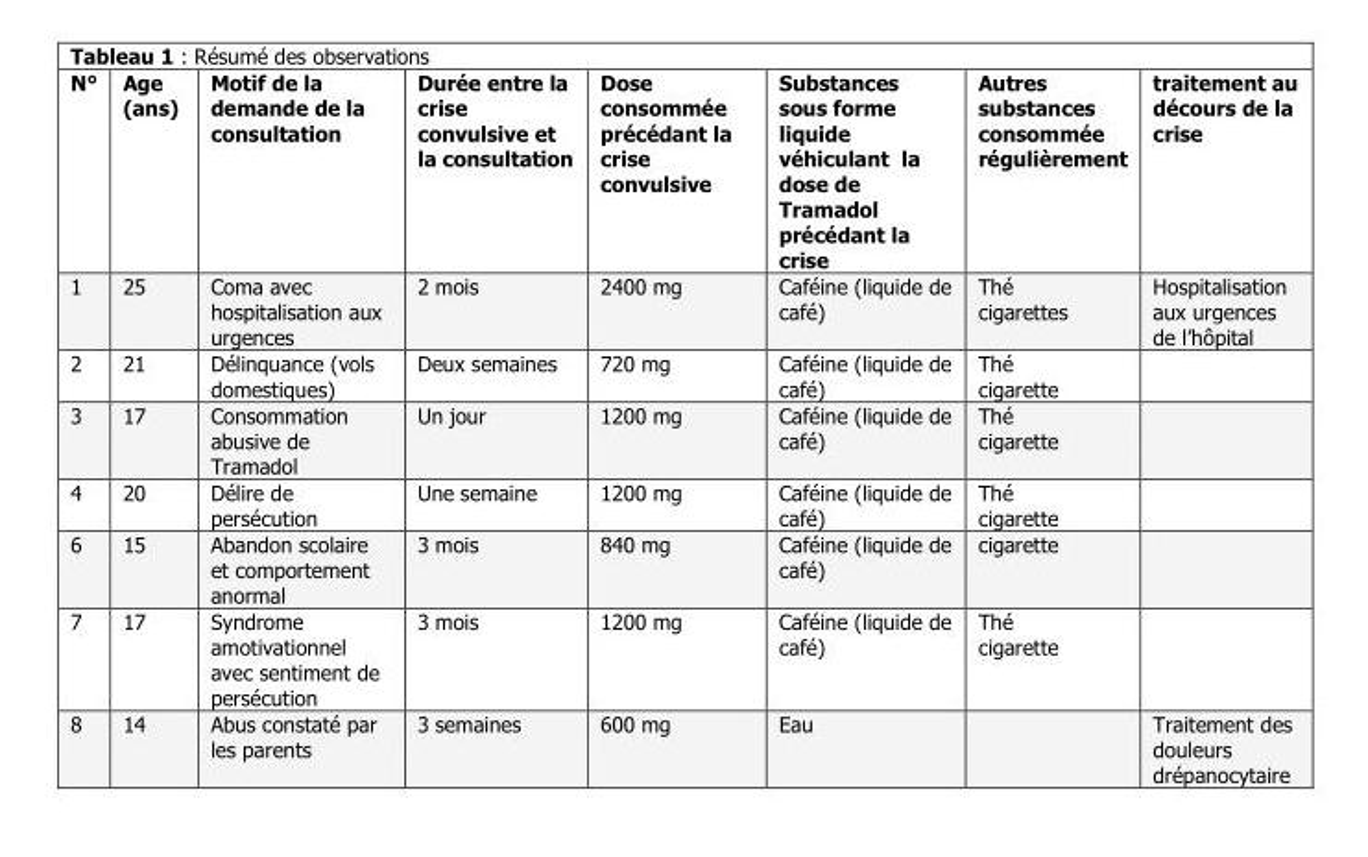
<table><thead><tr><td>N°</td><td>Age (ans)</td><td>Motif de la demande de la consultation</td><td>Durée entre la crise convulsive et la consultation</td><td>Dose consommée précédant la crise convulsive</td><td>Substances sous forme liquide véhiculant la dose de Tramadol précédant la crise</td><td>Autres substances consommée régulièrement</td><td>traitement au décours de la crise</td></tr></thead><tbody><tr><td>1</td><td>25</td><td>Coma avec hospitalisation aux urgences</td><td>2 mois</td><td>2400 mg</td><td>Caféine (liquide de café)</td><td>Thé cigarettes</td><td>Hospitalisation aux urgences de l’hôpital</td></tr><tr><td>2</td><td>21</td><td>Délinquance (vols domestiques)</td><td>Deux semaines</td><td>720 mg</td><td>Caféine (liquide de café)</td><td>Thé cigarette</td><td></td></tr><tr><td>3</td><td>17</td><td>Consommation abusive de Tramadol</td><td>Un jour</td><td>1200 mg</td><td>Caféine (liquide de café)</td><td>Thé cigarette</td><td></td></tr><tr><td>4</td><td>20</td><td>Délire de persécution</td><td>Une semaine</td><td>1200 mg</td><td>Caféine (liquide de café)</td><td>Thé cigarette</td><td></td></tr><tr><td>6</td><td>15</td><td>Abandon scolaire et comportement anormal</td><td>3 mois</td><td>840 mg</td><td>Caféine (liquide de café)</td><td>cigarette</td><td></td></tr><tr><td>7</td><td>17</td><td>Syndrome amotivationnel avec sentiment de persécution</td><td>3 mois</td><td>1200 mg</td><td>Caféine (liquide de café)</td><td>Thé cigarette</td><td></td></tr><tr><td>8</td><td>14</td><td>Abus constaté par les parents</td><td>3 semaines</td><td>600 mg</td><td>Eau</td><td></td><td>Traitement des douleurs drépanocytaire</td></tr></tbody></table>